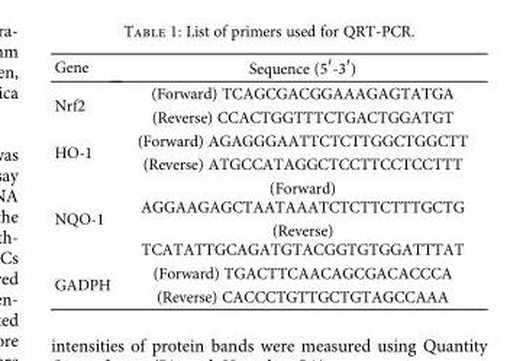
<table><thead><tr><td>Gene</td><td>Sequence (5′-3′)</td></tr></thead><tbody><tr><td rowspan="2">Nrf2</td><td>(Forward) TCAGCGACGGAAAGAGTATGA</td></tr><tr><td>(Reverse) CCACTGGTTTCTGACTGGATGT</td></tr><tr><td rowspan="2">HO-1</td><td>(Forward) AGAGGGAATTCTCTTGGCTGGCTT</td></tr><tr><td>(Reverse) ATGCCATAGGCTCCTTCCTCCTTT</td></tr><tr><td rowspan="2">NQO-1</td><td>(Forward) AGGAAGAGCTAATAAATCTCTTCTTTGCTG</td></tr><tr><td>(Reverse) TCATATTGCAGATGTACGGTGTGGATTTAT</td></tr><tr><td rowspan="2">GADPH</td><td>(Forward) TGACTTCAACAGCGACACCCA</td></tr><tr><td>(Reverse) CACCCTGTTGCTGTAGCCAAA</td></tr></tbody></table>